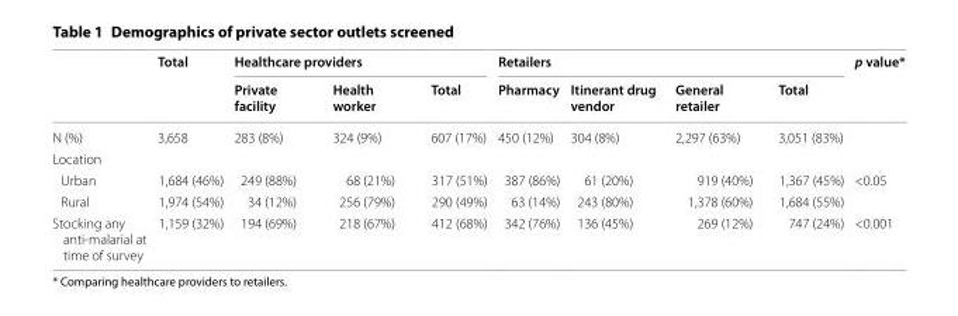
<table><thead><tr><td rowspan="2"></td><td rowspan="2">Total</td><td colspan="3">Healthcare providers</td><td colspan="4">Retailers</td><td rowspan="2">p value*</td></tr><tr><td>Private facility</td><td>Health worker</td><td>Total</td><td>Pharmacy</td><td>Itinerant drug vendor</td><td>General retailer</td><td>Total</td></tr></thead><tbody><tr><td>N (%)</td><td>3,658</td><td>283 (8%)</td><td>324 (9%)</td><td>607 (17%)</td><td>450 (12%)</td><td>304 (8%)</td><td>2,297 (63%)</td><td>3,051 (83%)</td><td></td></tr><tr><td colspan="10">Location</td></tr><tr><td>Urban</td><td>1,684 (46%)</td><td>249 (88%)</td><td>68 (21%)</td><td>317 (51%)</td><td>387 (86%)</td><td>61 (20%)</td><td>919 (40%)</td><td>1,367 (45%)</td><td rowspan="2">&lt;0.05</td></tr><tr><td>Rural</td><td>1,974 (54%)</td><td>34 (12%)</td><td>256 (79%)</td><td>290 (49%)</td><td>63 (14%)</td><td>243 (80%)</td><td>1,378 (60%)</td><td>1,684 (55%)</td></tr><tr><td>Stocking any anti-malarial at time of survey</td><td>1,159 (32%)</td><td>194 (69%)</td><td>218 (67%)</td><td>412 (68%)</td><td>342 (76%)</td><td>136 (45%)</td><td>269 (12%)</td><td>747 (24%)</td><td>&lt;0.001</td></tr></tbody></table>